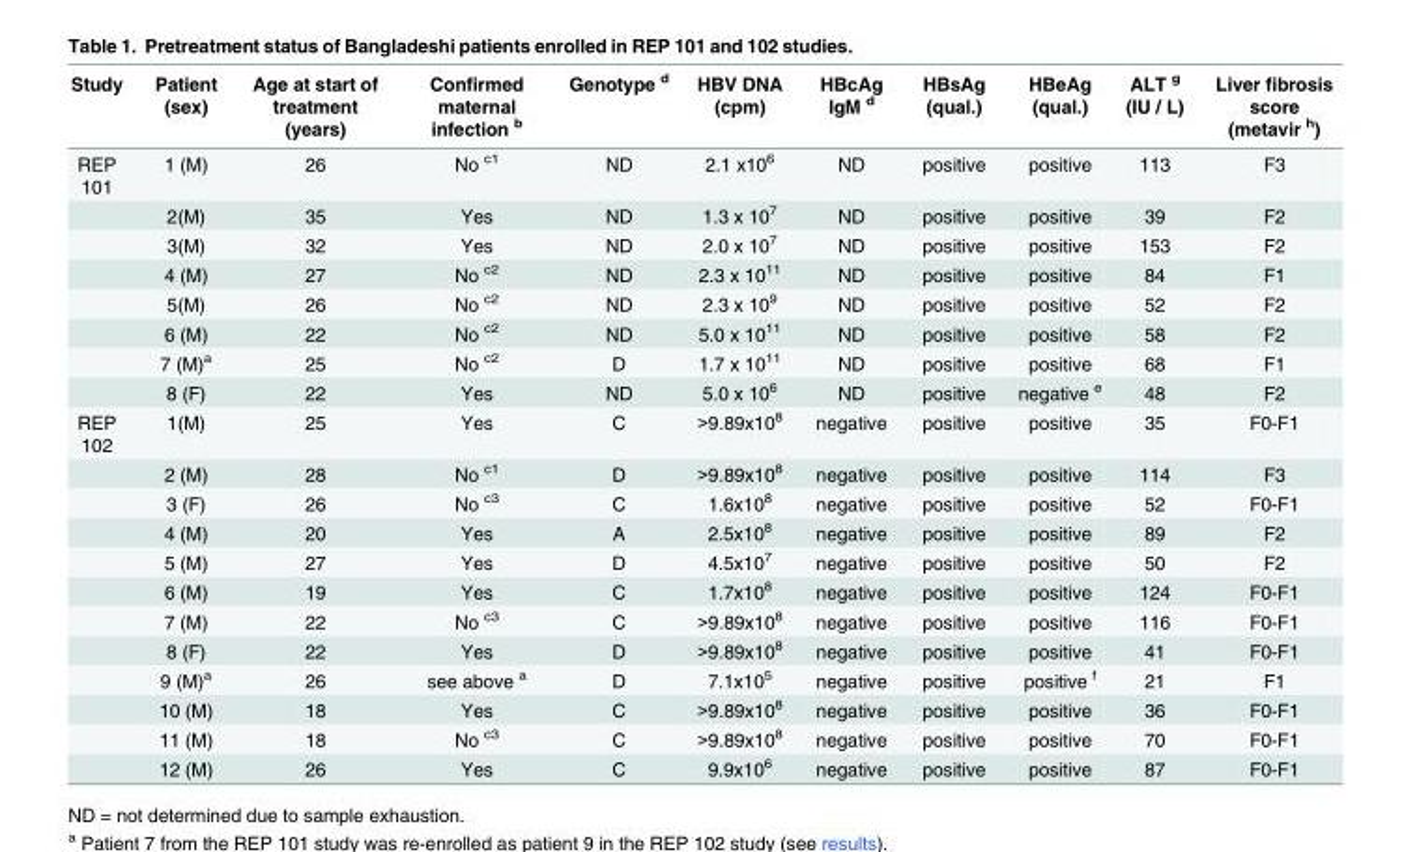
<table><thead><tr><td>Study</td><td>Patient (sex)</td><td>Age at start of treatment (years)</td><td>Confirmed maternal infection <sup>b</sup></td><td>Genotype <sup>d</sup></td><td>HBV DNA (cpm)</td><td>HBcAg IgM <sup>d</sup></td><td>HBsAg (qual.)</td><td>HBeAg (qual.)</td><td>ALT <sup>g</sup> (IU / L)</td><td>Liver fibrosis score (metavir <sup>h</sup>)</td></tr></thead><tbody><tr><td rowspan="8">REP 101</td><td>1 (M)</td><td>26</td><td>No <sup>c1</sup></td><td>ND</td><td>2.1 x10<sup>6</sup></td><td>ND</td><td>positive</td><td>positive</td><td>113</td><td>F3</td></tr><tr><td>2(M)</td><td>35</td><td>Yes</td><td>ND</td><td>1.3 x 10<sup>7</sup></td><td>ND</td><td>positive</td><td>positive</td><td>39</td><td>F2</td></tr><tr><td>3(M)</td><td>32</td><td>Yes</td><td>ND</td><td>2.0 x 10<sup>7</sup></td><td>ND</td><td>positive</td><td>positive</td><td>153</td><td>F2</td></tr><tr><td>4 (M)</td><td>27</td><td>No <sup>c2</sup></td><td>ND</td><td>2.3 x 10<sup>11</sup></td><td>ND</td><td>positive</td><td>positive</td><td>84</td><td>F1</td></tr><tr><td>5(M)</td><td>26</td><td>No <sup>c2</sup></td><td>ND</td><td>2.3 x 10<sup>9</sup></td><td>ND</td><td>positive</td><td>positive</td><td>52</td><td>F2</td></tr><tr><td>6 (M)</td><td>22</td><td>No <sup>c2</sup></td><td>ND</td><td>5.0 x 10<sup>11</sup></td><td>ND</td><td>positive</td><td>positive</td><td>58</td><td>F2</td></tr><tr><td>7 (M)<sup>a</sup></td><td>25</td><td>No <sup>c2</sup></td><td>D</td><td>1.7 x 10<sup>11</sup></td><td>ND</td><td>positive</td><td>positive</td><td>68</td><td>F1</td></tr><tr><td>8 (F)</td><td>22</td><td>Yes</td><td>ND</td><td>5.0 x 10<sup>6</sup></td><td>ND</td><td>positive</td><td>negative <sup>e</sup></td><td>48</td><td>F2</td></tr><tr><td rowspan="12">REP 102</td><td>1(M)</td><td>25</td><td>Yes</td><td>C</td><td>&gt;9.89x10<sup>8</sup></td><td>negative</td><td>positive</td><td>positive</td><td>35</td><td>F0-F1</td></tr><tr><td>2 (M)</td><td>28</td><td>No <sup>c1</sup></td><td>D</td><td>&gt;9.89x10<sup>8</sup></td><td>negative</td><td>positive</td><td>positive</td><td>114</td><td>F3</td></tr><tr><td>3 (F)</td><td>26</td><td>No <sup>c3</sup></td><td>C</td><td>1.6x10<sup>8</sup></td><td>negative</td><td>positive</td><td>positive</td><td>52</td><td>F0-F1</td></tr><tr><td>4 (M)</td><td>20</td><td>Yes</td><td>A</td><td>2.5x10<sup>8</sup></td><td>negative</td><td>positive</td><td>positive</td><td>89</td><td>F2</td></tr><tr><td>5 (M)</td><td>27</td><td>Yes</td><td>D</td><td>4.5x10<sup>7</sup></td><td>negative</td><td>positive</td><td>positive</td><td>50</td><td>F2</td></tr><tr><td>6 (M)</td><td>19</td><td>Yes</td><td>C</td><td>1.7x10<sup>8</sup></td><td>negative</td><td>positive</td><td>positive</td><td>124</td><td>F0-F1</td></tr><tr><td>7 (M)</td><td>22</td><td>No <sup>c3</sup></td><td>C</td><td>&gt;9.89x10<sup>8</sup></td><td>negative</td><td>positive</td><td>positive</td><td>116</td><td>F0-F1</td></tr><tr><td>8 (F)</td><td>22</td><td>Yes</td><td>D</td><td>&gt;9.89x10<sup>8</sup></td><td>negative</td><td>positive</td><td>positive</td><td>41</td><td>F0-F1</td></tr><tr><td>9 (M)<sup>a</sup></td><td>26</td><td>see above <sup>a</sup></td><td>D</td><td>7.1x10<sup>5</sup></td><td>negative</td><td>positive</td><td>positive <sup>f</sup></td><td>21</td><td>F1</td></tr><tr><td>10 (M)</td><td>18</td><td>Yes</td><td>C</td><td>&gt;9.89x10<sup>8</sup></td><td>negative</td><td>positive</td><td>positive</td><td>36</td><td>F0-F1</td></tr><tr><td>11 (M)</td><td>18</td><td>No <sup>c3</sup></td><td>C</td><td>&gt;9.89x10<sup>8</sup></td><td>negative</td><td>positive</td><td>positive</td><td>70</td><td>F0-F1</td></tr><tr><td>12 (M)</td><td>26</td><td>Yes</td><td>C</td><td>9.9x10<sup>6</sup></td><td>negative</td><td>positive</td><td>positive</td><td>87</td><td>F0-F1</td></tr></tbody></table>